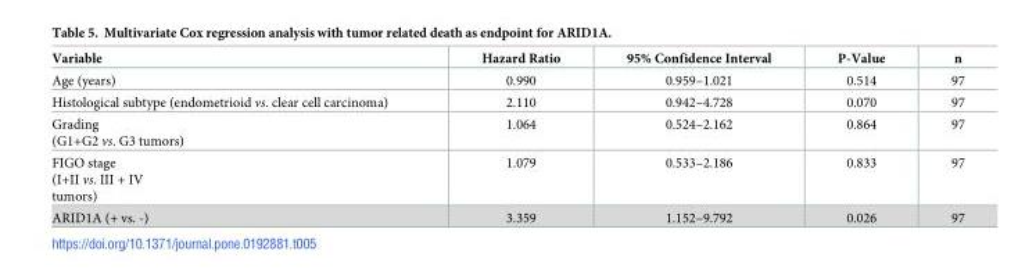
<table><thead><tr><td>Variable</td><td>Hazard Ratio</td><td>95% Confidence Interval</td><td>P-Value</td><td>n</td></tr></thead><tbody><tr><td>Age (years)</td><td>0.990</td><td>0.959–1.021</td><td>0.514</td><td>97</td></tr><tr><td>Histological subtype (endometrioid vs. clear cell carcinoma)</td><td>2.110</td><td>0.942–4.728</td><td>0.070</td><td>97</td></tr><tr><td>Grading (G1+G2 vs. G3 tumors)</td><td>1.064</td><td>0.524–2.162</td><td>0.864</td><td>97</td></tr><tr><td>FIGO stage (I+II vs. III + IV tumors)</td><td>1.079</td><td>0.533–2.186</td><td>0.833</td><td>97</td></tr><tr><td>ARID1A (+ vs. -)</td><td>3.359</td><td>1.152–9.792</td><td>0.026</td><td>97</td></tr></tbody></table>